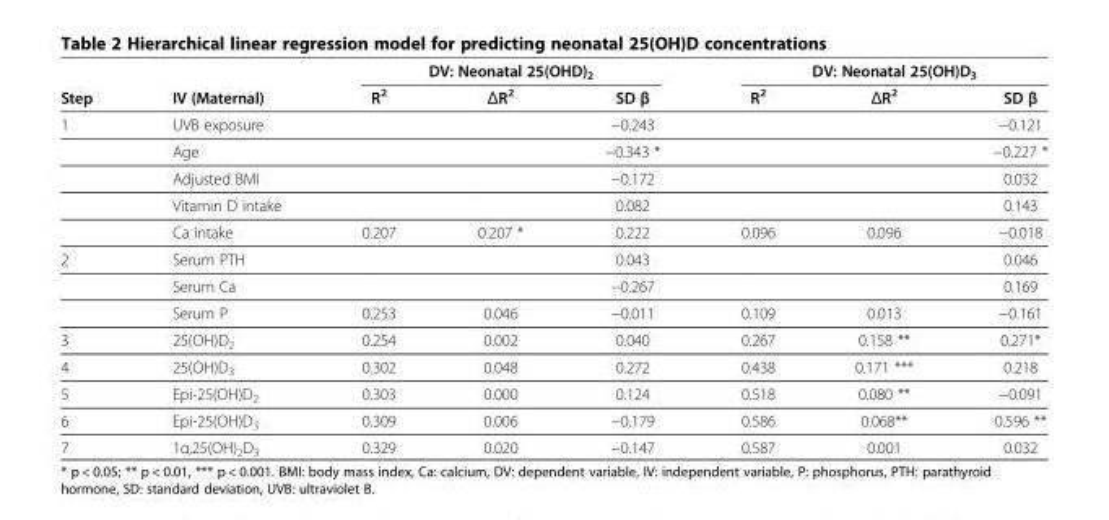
<table><thead><tr><td rowspan="2">Step</td><td rowspan="2">IV (Maternal)</td><td colspan="3">DV: Neonatal 25(OHD)<sub>2</sub></td><td colspan="3">DV: Neonatal 25(OH)D<sub>3</sub></td></tr><tr><td>R<sup>2</sup></td><td>ΔR<sup>2</sup></td><td>SD β</td><td>R<sup>2</sup></td><td>ΔR<sup>2</sup></td><td>SD β</td></tr></thead><tbody><tr><td rowspan="5">1</td><td>UVB exposure</td><td></td><td></td><td>−0.243</td><td></td><td></td><td>−0.121</td></tr><tr><td>Age</td><td></td><td></td><td>−0.343 *</td><td></td><td></td><td>−0.227 *</td></tr><tr><td>Adjusted BMI</td><td></td><td></td><td>−0.172</td><td></td><td></td><td>0.032</td></tr><tr><td>Vitamin D intake</td><td></td><td></td><td>0.082</td><td></td><td></td><td>0.143</td></tr><tr><td>Ca intake</td><td>0.207</td><td>0.207 *</td><td>0.222</td><td>0.096</td><td>0.096</td><td>−0.018</td></tr><tr><td rowspan="3">2</td><td>Serum PTH</td><td></td><td></td><td>0.043</td><td></td><td></td><td>0.046</td></tr><tr><td>Serum Ca</td><td></td><td></td><td>−0.267</td><td></td><td></td><td>0.169</td></tr><tr><td>Serum P</td><td>0.253</td><td>0.046</td><td>−0.011</td><td>0.109</td><td>0.013</td><td>−0.161</td></tr><tr><td>3</td><td>25(OH)D<sub>2</sub></td><td>0.254</td><td>0.002</td><td>0.040</td><td>0.267</td><td>0.158 **</td><td>0.271*</td></tr><tr><td>4</td><td>25(OH)D<sub>3</sub></td><td>0.302</td><td>0.048</td><td>0.272</td><td>0.438</td><td>0.171 ***</td><td>0.218</td></tr><tr><td>5</td><td>Epi-25(OH)D<sub>2</sub></td><td>0.303</td><td>0.000</td><td>0.124</td><td>0.518</td><td>0.080 **</td><td>−0.091</td></tr><tr><td>6</td><td>Epi-25(OH)D<sub>3</sub></td><td>0.309</td><td>0.006</td><td>−0.179</td><td>0.586</td><td>0.068**</td><td>0.596 **</td></tr><tr><td>7</td><td>1α,25(OH)<sub>2</sub>D<sub>3</sub></td><td>0.329</td><td>0.020</td><td>−0.147</td><td>0.587</td><td>0.001</td><td>0.032</td></tr></tbody></table>